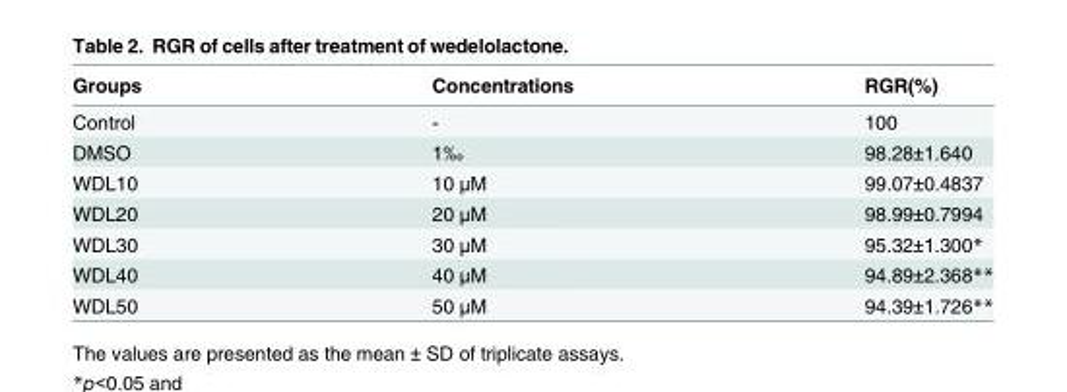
<table><thead><tr><td>Groups</td><td>Concentrations</td><td>RGR(%)</td></tr></thead><tbody><tr><td>Control</td><td>-</td><td>100</td></tr><tr><td>DMSO</td><td>1‰</td><td>98.28±1.640</td></tr><tr><td>WDL10</td><td>10 μM</td><td>99.07±0.4837</td></tr><tr><td>WDL20</td><td>20 μM</td><td>98.99±0.7994</td></tr><tr><td>WDL30</td><td>30 μM</td><td>95.32±1.300*</td></tr><tr><td>WDL40</td><td>40 μM</td><td>94.89±2.368**</td></tr><tr><td>WDL50</td><td>50 μM</td><td>94.39±1.726**</td></tr></tbody></table>